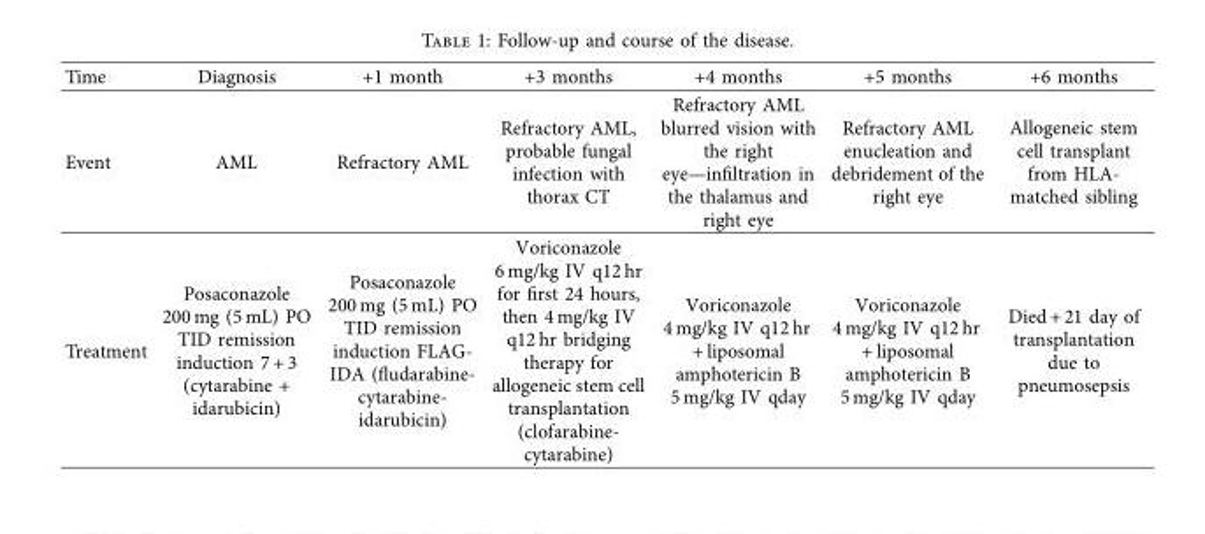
<table><thead><tr><td>Time</td><td>Diagnosis</td><td>+1 month</td><td>+3 months</td><td>+4 months</td><td>+5 months</td><td>+6 months</td></tr></thead><tbody><tr><td>Event</td><td>AML</td><td>Refractory AML</td><td>Refractory AML, probable fungal infection with thorax CT</td><td>Refractory AML blurred vision with the right eye—infiltration in the thalamus and right eye</td><td>Refractory AML enucleation and debridement of the right eye</td><td>Allogeneic stem cell transplant from HLA- matched sibling</td></tr><tr><td>Treatment</td><td>Posaconazole 200 mg (5 mL) PO TID remission induction 7 + 3 (cytarabine + idarubicin)</td><td>Posaconazole 200 mg (5 mL) PO TID remission induction FLAG- IDA (fludarabine- cytarabine- idarubicin)</td><td>Voriconazole 6 mg/kg IV q12 hr for first 24 hours, then 4 mg/kg IV q12 hr bridging therapy for allogeneic stem cell transplantation (clofarabine- cytarabine)</td><td>Voriconazole 4 mg/kg IV q12 hr + liposomal amphotericin B 5 mg/kg IV qday</td><td>Voriconazole 4 mg/kg IV q12 hr + liposomal amphotericin B 5 mg/kg IV qday</td><td>Died + 21 day of transplantation due to pneumosepsis</td></tr></tbody></table>